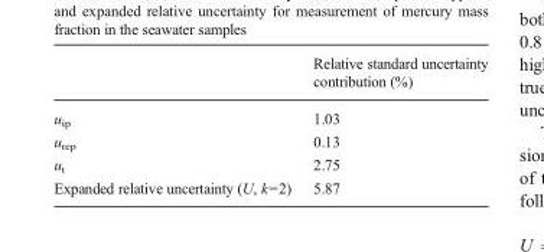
<table><thead><tr><td></td><td>Relative standard uncertainty contribution (%)</td></tr></thead><tbody><tr><td>u<sub>ip</sub></td><td>1.03</td></tr><tr><td>u<sub>rep</sub></td><td>0.13</td></tr><tr><td>u<sub>t</sub></td><td>2.75</td></tr><tr><td>Expanded relative uncertainty (U, k=2)</td><td>5.87</td></tr></tbody></table>